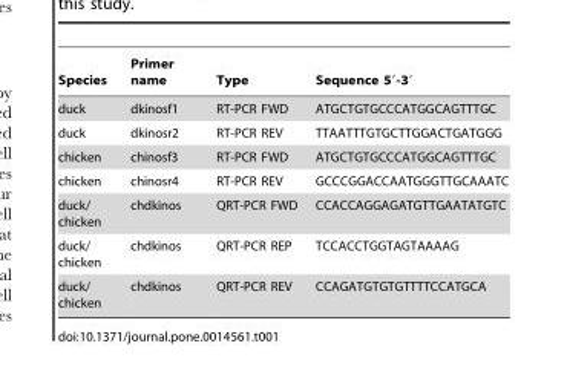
<table><thead><tr><td>Species</td><td>Primer name</td><td>Type</td><td>Sequence 5′-3′</td></tr></thead><tbody><tr><td>duck</td><td>dkinosf1</td><td>RT-PCR FWD</td><td>ATGCTGTGCCCATGGCAGTTTGC</td></tr><tr><td>duck</td><td>dkinosr2</td><td>RT-PCR REV</td><td>TTAATTTGTGCTTGGACTGATGGG</td></tr><tr><td>chicken</td><td>chinosf3</td><td>RT-PCR FWD</td><td>ATGCTGTGCCCATGGCAGTTTGC</td></tr><tr><td>chicken</td><td>chinosr4</td><td>RT-PCR REV</td><td>GCCCGGACCAATGGGTTGCAAATC</td></tr><tr><td>duck/ chicken</td><td>chdkinos</td><td>QRT-PCR FWD</td><td>CCACCAGGAGATGTTGAATATGTC</td></tr><tr><td>duck/ chicken</td><td>chdkinos</td><td>QRT-PCR REP</td><td>TCCACCTGGTAGTAAAAG</td></tr><tr><td>duck/ chicken</td><td>chdkinos</td><td>QRT-PCR REV</td><td>CCAGATGTGTGTTTTCCATGCA</td></tr></tbody></table>